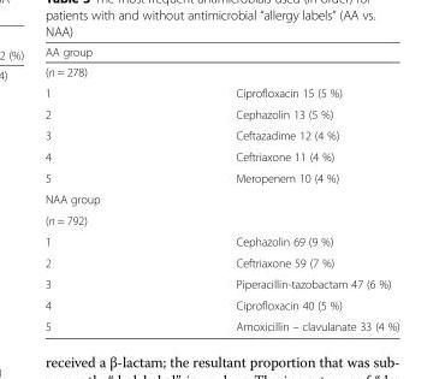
<table><thead><tr><td rowspan="2" colspan="2">AA group (n = 278)</td></tr><tr></tr><tr><td>1</td><td>Ciprofloxacin 15 (5 %)</td></tr></thead><tbody><tr><td>2</td><td>Cephazolin 13 (5 %)</td></tr><tr><td>3</td><td>Ceftazadime 12 (4 %)</td></tr><tr><td>4</td><td>Ceftriaxone 11 (4 %)</td></tr><tr><td>5</td><td>Meropenem 10 (4 %)</td></tr><tr><td colspan="2">NAA group</td></tr><tr><td colspan="2">(n = 792)</td></tr><tr><td>1</td><td>Cephazolin 69 (9 %)</td></tr><tr><td>2</td><td>Ceftriaxone 59 (7 %)</td></tr><tr><td>3</td><td>Piperacillin-tazobactam 47 (6 %)</td></tr><tr><td>4</td><td>Ciprofloxacin 40 (5 %)</td></tr><tr><td>5</td><td>Amoxicillin – clavulanate 33 (4 %)</td></tr></tbody></table>